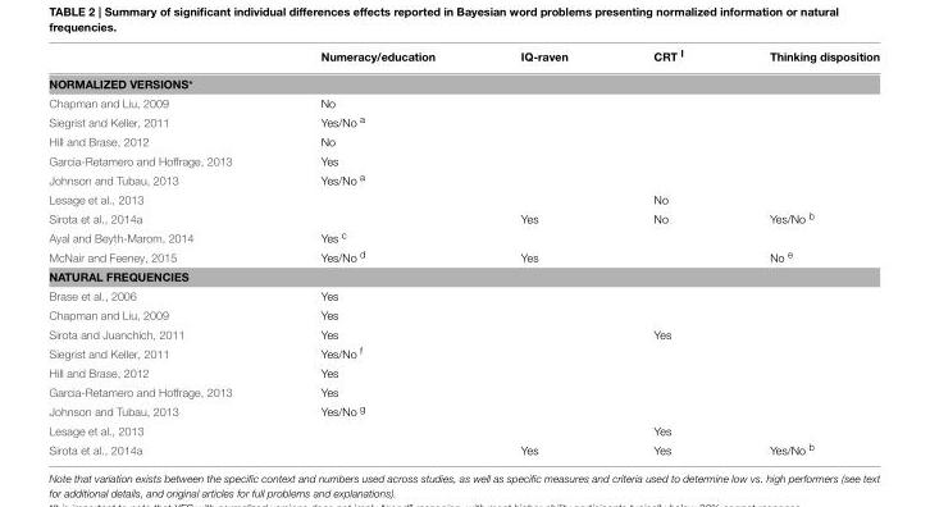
<table><thead><tr><td></td><td>Numeracy/education</td><td>IQ-raven</td><td>CRT <sup>I</sup></td><td>Thinking disposition</td></tr></thead><tbody><tr><td colspan="5">NORMALIZED VERSIONS*</td></tr><tr><td>Chapman and Liu, 2009</td><td>No</td><td></td><td></td><td></td></tr><tr><td>Siegrist and Keller, 2011</td><td>Yes/No <sup>a</sup></td><td></td><td></td><td></td></tr><tr><td>Hill and Brase, 2012</td><td>No</td><td></td><td></td><td></td></tr><tr><td>Garcia-Retamero and Hoffrage, 2013</td><td>Yes</td><td></td><td></td><td></td></tr><tr><td>Johnson and Tubau, 2013</td><td>Yes/No <sup>a</sup></td><td></td><td></td><td></td></tr><tr><td>Lesage et al., 2013</td><td></td><td></td><td>No</td><td></td></tr><tr><td>Sirota et al., 2014a</td><td></td><td>Yes</td><td>No</td><td>Yes/No <sup>b</sup></td></tr><tr><td>Ayal and Beyth-Marom, 2014</td><td>Yes <sup>c</sup></td><td></td><td></td><td></td></tr><tr><td>McNair and Feeney, 2015</td><td>Yes/No <sup>d</sup></td><td>Yes</td><td></td><td>No <sup>e</sup></td></tr><tr><td colspan="5">NATURAL FREQUENCIES</td></tr><tr><td>Brase et al., 2006</td><td>Yes</td><td></td><td></td><td></td></tr><tr><td>Chapman and Liu, 2009</td><td>Yes</td><td></td><td></td><td></td></tr><tr><td>Sirota and Juanchich, 2011</td><td>Yes</td><td></td><td>Yes</td><td></td></tr><tr><td>Siegrist and Keller, 2011</td><td>Yes/No <sup>f</sup></td><td></td><td></td><td></td></tr><tr><td>Hill and Brase, 2012</td><td>Yes</td><td></td><td></td><td></td></tr><tr><td>Garcia-Retamero and Hoffrage, 2013</td><td>Yes</td><td></td><td></td><td></td></tr><tr><td>Johnson and Tubau, 2013</td><td>Yes/No <sup>g</sup></td><td></td><td></td><td></td></tr><tr><td>Lesage et al., 2013</td><td></td><td></td><td>Yes</td><td></td></tr><tr><td>Sirota et al., 2014a</td><td></td><td>Yes</td><td>Yes</td><td>Yes/No <sup>b</sup></td></tr></tbody></table>